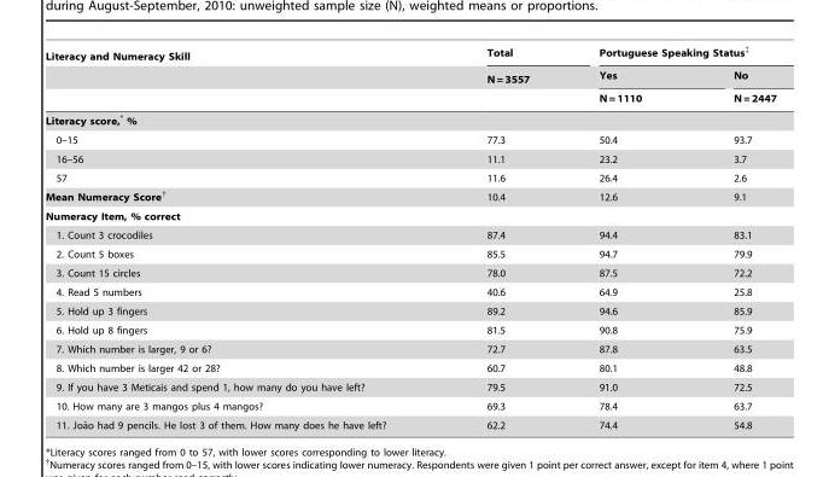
<table><thead><tr><td rowspan="3">Literacy and Numeracy Skill</td><td rowspan="3">Total N = 3557</td><td colspan="2">Portuguese Speaking Status‡</td></tr><tr><td rowspan="2">Yes N = 1110</td><td rowspan="2">No N = 2447</td></tr><tr></tr></thead><tbody><tr><td colspan="4">Literacy score,* %</td></tr><tr><td>0–15</td><td>77.3</td><td>50.4</td><td>93.7</td></tr><tr><td>16–56</td><td>11.1</td><td>23.2</td><td>3.7</td></tr><tr><td>57</td><td>11.6</td><td>26.4</td><td>2.6</td></tr><tr><td>Mean Numeracy Score†</td><td>10.4</td><td>12.6</td><td>9.1</td></tr><tr><td colspan="4">Numeracy Item, % correct</td></tr><tr><td>1. Count 3 crocodiles</td><td>87.4</td><td>94.4</td><td>83.1</td></tr><tr><td>2. Count 5 boxes</td><td>85.5</td><td>94.7</td><td>79.9</td></tr><tr><td>3. Count 15 circles</td><td>78.0</td><td>87.5</td><td>72.2</td></tr><tr><td>4. Read 5 numbers</td><td>40.6</td><td>64.9</td><td>25.8</td></tr><tr><td>5. Hold up 3 fingers</td><td>89.2</td><td>94.6</td><td>85.9</td></tr><tr><td>6. Hold up 8 fingers</td><td>81.5</td><td>90.8</td><td>75.9</td></tr><tr><td>7. Which number is larger, 9 or 6?</td><td>72.7</td><td>87.8</td><td>63.5</td></tr><tr><td>8. Which number is larger 42 or 28?</td><td>60.7</td><td>80.1</td><td>48.8</td></tr><tr><td>9. If you have 3 Meticais and spend 1, how many do you have left?</td><td>79.5</td><td>91.0</td><td>72.5</td></tr><tr><td>10. How many are 3 mangos plus 4 mangos?</td><td>69.3</td><td>78.4</td><td>63.7</td></tr><tr><td>11. Joa˜o had 9 pencils. He lost 3 of them. How many does he have left?</td><td>62.2</td><td>74.4</td><td>54.8</td></tr></tbody></table>